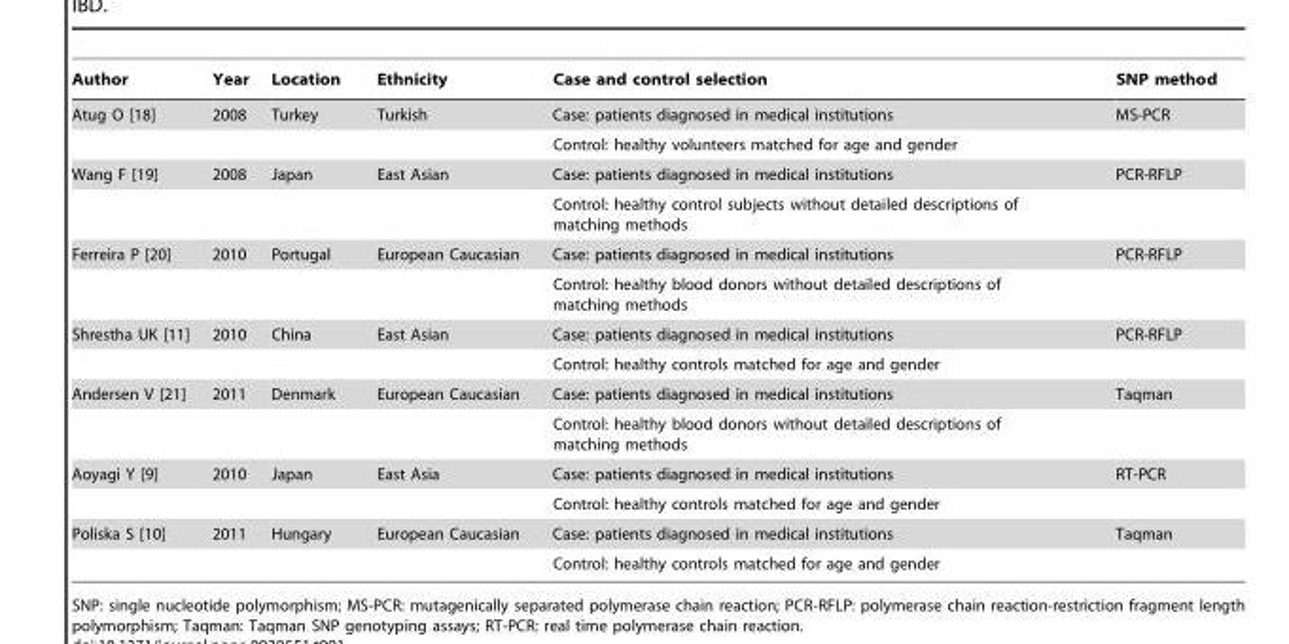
<table><thead><tr><td>Author</td><td>Year</td><td>Location</td><td>Ethnicity</td><td>Case and control selection</td><td>SNP method</td></tr></thead><tbody><tr><td rowspan="2">Atug O [18]</td><td>2008</td><td>Turkey</td><td>Turkish</td><td>Case: patients diagnosed in medical institutions</td><td>MS-PCR</td></tr><tr><td></td><td></td><td></td><td>Control: healthy volunteers matched for age and gender</td><td></td></tr><tr><td rowspan="2">Wang F [19]</td><td>2008</td><td>Japan</td><td>East Asian</td><td>Case: patients diagnosed in medical institutions</td><td>PCR-RFLP</td></tr><tr><td></td><td></td><td></td><td>Control: healthy control subjects without detailed descriptions of matching methods</td><td></td></tr><tr><td rowspan="2">Ferreira P [20]</td><td>2010</td><td>Portugal</td><td>European Caucasian</td><td>Case: patients diagnosed in medical institutions</td><td>PCR-RFLP</td></tr><tr><td></td><td></td><td></td><td>Control: healthy blood donors without detailed descriptions of matching methods</td><td></td></tr><tr><td rowspan="2">Shrestha UK [11]</td><td>2010</td><td>China</td><td>East Asian</td><td>Case: patients diagnosed in medical institutions</td><td>PCR-RFLP</td></tr><tr><td></td><td></td><td></td><td>Control: healthy controls matched for age and gender</td><td></td></tr><tr><td rowspan="2">Andersen V [21]</td><td>2011</td><td>Denmark</td><td>European Caucasian</td><td>Case: patients diagnosed in medical institutions</td><td>Taqman</td></tr><tr><td></td><td></td><td></td><td>Control: healthy blood donors without detailed descriptions of matching methods</td><td></td></tr><tr><td rowspan="2">Aoyagi Y [9]</td><td>2010</td><td>Japan</td><td>East Asia</td><td>Case: patients diagnosed in medical institutions</td><td>RT-PCR</td></tr><tr><td></td><td></td><td></td><td>Control: healthy controls matched for age and gender</td><td></td></tr><tr><td rowspan="2">Poliska S [10]</td><td>2011</td><td>Hungary</td><td>European Caucasian</td><td>Case: patients diagnosed in medical institutions</td><td>Taqman</td></tr><tr><td></td><td></td><td></td><td>Control: healthy controls matched for age and gender</td><td></td></tr></tbody></table>